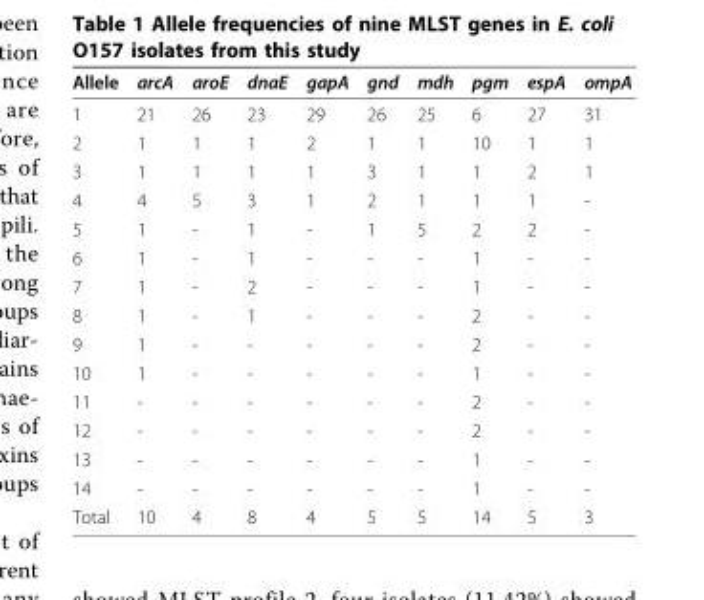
<table><thead><tr><td>Allele</td><td>arcA</td><td>aroE</td><td>dnaE</td><td>gapA</td><td>gnd</td><td>mdh</td><td>pgm</td><td>espA</td><td>ompA</td></tr></thead><tbody><tr><td>1</td><td>21</td><td>26</td><td>23</td><td>29</td><td>26</td><td>25</td><td>6</td><td>27</td><td>31</td></tr><tr><td>2</td><td>1</td><td>1</td><td>1</td><td>2</td><td>1</td><td>1</td><td>10</td><td>1</td><td>1</td></tr><tr><td>3</td><td>1</td><td>1</td><td>1</td><td>1</td><td>3</td><td>1</td><td>1</td><td>2</td><td>1</td></tr><tr><td>4</td><td>4</td><td>5</td><td>3</td><td>1</td><td>2</td><td>1</td><td>1</td><td>1</td><td>-</td></tr><tr><td>5</td><td>1</td><td>-</td><td>1</td><td>-</td><td>1</td><td>5</td><td>2</td><td>2</td><td>-</td></tr><tr><td>6</td><td>1</td><td>-</td><td>1</td><td>-</td><td>-</td><td>-</td><td>1</td><td>-</td><td>-</td></tr><tr><td>7</td><td>1</td><td>-</td><td>2</td><td>-</td><td>-</td><td>-</td><td>1</td><td>-</td><td>-</td></tr><tr><td>8</td><td>1</td><td>-</td><td>1</td><td>-</td><td>-</td><td>-</td><td>2</td><td>-</td><td>-</td></tr><tr><td>9</td><td>1</td><td>-</td><td>-</td><td>-</td><td>-</td><td>-</td><td>2</td><td>-</td><td>-</td></tr><tr><td>10</td><td>1</td><td>-</td><td>-</td><td>-</td><td>-</td><td>-</td><td>1</td><td>-</td><td>-</td></tr><tr><td>11</td><td>-</td><td>-</td><td>-</td><td>-</td><td>-</td><td>-</td><td>2</td><td>-</td><td>-</td></tr><tr><td>12</td><td>-</td><td>-</td><td>-</td><td>-</td><td>-</td><td>-</td><td>2</td><td>-</td><td>-</td></tr><tr><td>13</td><td>-</td><td>-</td><td>-</td><td>-</td><td>-</td><td>-</td><td>1</td><td>-</td><td>-</td></tr><tr><td>14</td><td>-</td><td>-</td><td>-</td><td>-</td><td>-</td><td>-</td><td>1</td><td>-</td><td>-</td></tr><tr><td>Total</td><td>10</td><td>4</td><td>8</td><td>4</td><td>5</td><td>5</td><td>14</td><td>5</td><td>3</td></tr></tbody></table>